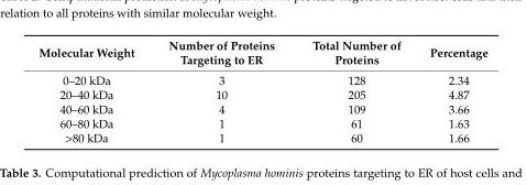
<table><thead><tr><td>Molecular Weight</td><td>Number of Proteins Targeting to ER</td><td>Total Number of Proteins</td><td>Percentage</td></tr></thead><tbody><tr><td>0–20 kDa</td><td>3</td><td>128</td><td>2.34</td></tr><tr><td>20–40 kDa</td><td>10</td><td>205</td><td>4.87</td></tr><tr><td>40–60 kDa</td><td>4</td><td>109</td><td>3.66</td></tr><tr><td>60–80 kDa</td><td>1</td><td>61</td><td>1.63</td></tr><tr><td>&gt;80 kDa</td><td>1</td><td>60</td><td>1.66</td></tr></tbody></table>